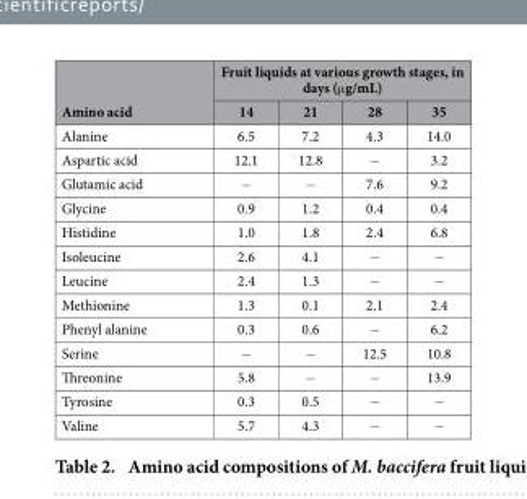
<table><thead><tr><td rowspan="2">Amino acid</td><td colspan="4">Fruit liquids at various growth stages, in days (μ g/mL)</td></tr><tr><td>14</td><td>21</td><td>28</td><td>35</td></tr></thead><tbody><tr><td>Alanine</td><td>6.5</td><td>7.2</td><td>4.3</td><td>14.0</td></tr><tr><td>Aspartic acid</td><td>12.1</td><td>12.8</td><td>−</td><td>3.2</td></tr><tr><td>Glutamic acid</td><td>−</td><td>−</td><td>7.6</td><td>9.2</td></tr><tr><td>Glycine</td><td>0.9</td><td>1.2</td><td>0.4</td><td>0.4</td></tr><tr><td>Histidine</td><td>1.0</td><td>1.8</td><td>2.4</td><td>6.8</td></tr><tr><td>Isoleucine</td><td>2.6</td><td>4.1</td><td>−</td><td>−</td></tr><tr><td>Leucine</td><td>2.4</td><td>1.3</td><td>−</td><td>−</td></tr><tr><td>Methionine</td><td>1.3</td><td>0.1</td><td>2.1</td><td>2.4</td></tr><tr><td>Phenyl alanine</td><td>0.3</td><td>0.6</td><td>−</td><td>6.2</td></tr><tr><td>Serine</td><td>−</td><td>−</td><td>12.5</td><td>10.8</td></tr><tr><td>Threonine</td><td>5.8</td><td>−</td><td>−</td><td>13.9</td></tr><tr><td>Tyrosine</td><td>0.3</td><td>0.5</td><td>−</td><td>−</td></tr><tr><td>Valine</td><td>5.7</td><td>4.3</td><td>−</td><td>−</td></tr></tbody></table>